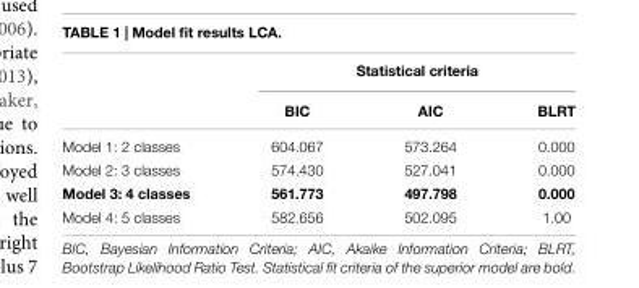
<table><thead><tr><td rowspan="2"></td><td colspan="3">Statistical criteria</td></tr><tr><td>BIC</td><td>AIC</td><td>BLRT</td></tr></thead><tbody><tr><td>Model 1: 2 classes</td><td>604.067</td><td>573.264</td><td>0.000</td></tr><tr><td>Model 2: 3 classes</td><td>574.430</td><td>527.041</td><td>0.000</td></tr><tr><td>Model 3: 4 classes</td><td>561.773</td><td>497.798</td><td>0.000</td></tr><tr><td>Model 4: 5 classes</td><td>582.656</td><td>502.095</td><td>1.00</td></tr></tbody></table>